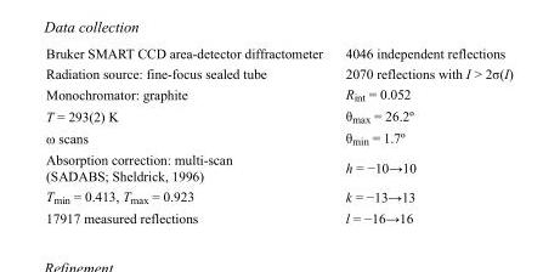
<table><tbody><tr><td>Bruker SMART CCD area-detector diffractometer</td><td>4046 independent reflections</td></tr><tr><td>Radiation source: fine-focus sealed tube</td><td>2070 reflections with I &gt; 2σ(I)</td></tr><tr><td>Monochromator: graphite</td><td>R<sub>int</sub> = 0.052</td></tr><tr><td>T = 293(2) K</td><td>θ<sub>max</sub> = 26.2º</td></tr><tr><td>ω scans</td><td>θ<sub>min</sub> = 1.7º</td></tr><tr><td>Absorption correction: multi-scan (SADABS; Sheldrick, 1996)</td><td>h = −10→10</td></tr><tr><td>T<sub>min</sub> = 0.413, T<sub>max</sub> = 0.923</td><td>k = −13→13</td></tr><tr><td>17917 measured reflections</td><td>l = −16→16</td></tr></tbody></table>